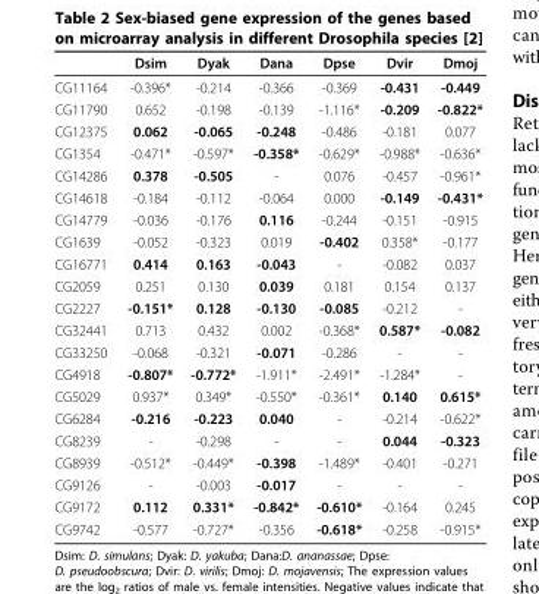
<table><thead><tr><td></td><td>Dsim</td><td>Dyak</td><td>Dana</td><td>Dpse</td><td>Dvir</td><td>Dmoj</td></tr></thead><tbody><tr><td>CG11164</td><td>-0.396*</td><td>-0.214</td><td>-0.366</td><td>-0.369</td><td>-0.431</td><td>-0.449</td></tr><tr><td>CG11790</td><td>0.652</td><td>-0.198</td><td>-0.139</td><td>-1.116*</td><td>-0.209</td><td>-0.822*</td></tr><tr><td>CG12375</td><td>0.062</td><td>-0.065</td><td>-0.248</td><td>-0.486</td><td>-0.181</td><td>0.077</td></tr><tr><td>CG1354</td><td>-0.471*</td><td>-0.597*</td><td>-0.358*</td><td>-0.629*</td><td>-0.988*</td><td>-0.636*</td></tr><tr><td>CG14286</td><td>0.378</td><td>-0.505</td><td>-</td><td>0.076</td><td>-0.457</td><td>-0.961*</td></tr><tr><td>CG14618</td><td>-0.184</td><td>-0.112</td><td>-0.064</td><td>0.000</td><td>-0.149</td><td>-0.431*</td></tr><tr><td>CG14779</td><td>-0.036</td><td>-0.176</td><td>0.116</td><td>-0.244</td><td>-0.151</td><td>-0.915</td></tr><tr><td>CG1639</td><td>-0.052</td><td>-0.323</td><td>0.019</td><td>-0.402</td><td>0.358*</td><td>-0.177</td></tr><tr><td>CG16771</td><td>0.414</td><td>0.163</td><td>-0.043</td><td>-</td><td>-0.082</td><td>0.037</td></tr><tr><td>CG2059</td><td>0.251</td><td>0.130</td><td>0.039</td><td>0.181</td><td>0.154</td><td>0.137</td></tr><tr><td>CG2227</td><td>-0.151*</td><td>0.128</td><td>-0.130</td><td>-0.085</td><td>-0.212</td><td>-</td></tr><tr><td>CG32441</td><td>0.713</td><td>0.432</td><td>0.002</td><td>-0.368*</td><td>0.587*</td><td>-0.082</td></tr><tr><td>CG33250</td><td>-0.068</td><td>-0.321</td><td>-0.071</td><td>-0.286</td><td>-</td><td>-</td></tr><tr><td>CG4918</td><td>-0.807*</td><td>-0.772*</td><td>-1.911*</td><td>-2.491*</td><td>-1.284*</td><td>-</td></tr><tr><td>CG5029</td><td>0.937*</td><td>0.349*</td><td>-0.550*</td><td>-0.361*</td><td>0.140</td><td>0.615*</td></tr><tr><td>CG6284</td><td>-0.216</td><td>-0.223</td><td>0.040</td><td>-</td><td>-0.214</td><td>-0.622*</td></tr><tr><td>CG8239</td><td>-</td><td>-0.298</td><td>-</td><td>-</td><td>0.044</td><td>-0.323</td></tr><tr><td>CG8939</td><td>-0.512*</td><td>-0.449*</td><td>-0.398</td><td>-1.489*</td><td>-0.401</td><td>-0.271</td></tr><tr><td>CG9126</td><td>-</td><td>-0.003</td><td>-0.017</td><td>-</td><td>-</td><td>-</td></tr><tr><td>CG9172</td><td>0.112</td><td>0.331*</td><td>-0.842*</td><td>-0.610*</td><td>-0.164</td><td>0.245</td></tr><tr><td>CG9742</td><td>-0.577</td><td>-0.727*</td><td>-0.356</td><td>-0.618*</td><td>-0.258</td><td>-0.915*</td></tr></tbody></table>